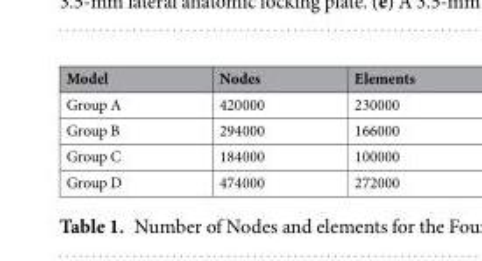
<table><thead><tr><td>Model</td><td>Nodes</td><td>Elements</td></tr></thead><tbody><tr><td>Group A</td><td>420000</td><td>230000</td></tr><tr><td>Group B</td><td>294000</td><td>166000</td></tr><tr><td>Group C</td><td>184000</td><td>100000</td></tr><tr><td>Group D</td><td>474000</td><td>272000</td></tr></tbody></table>